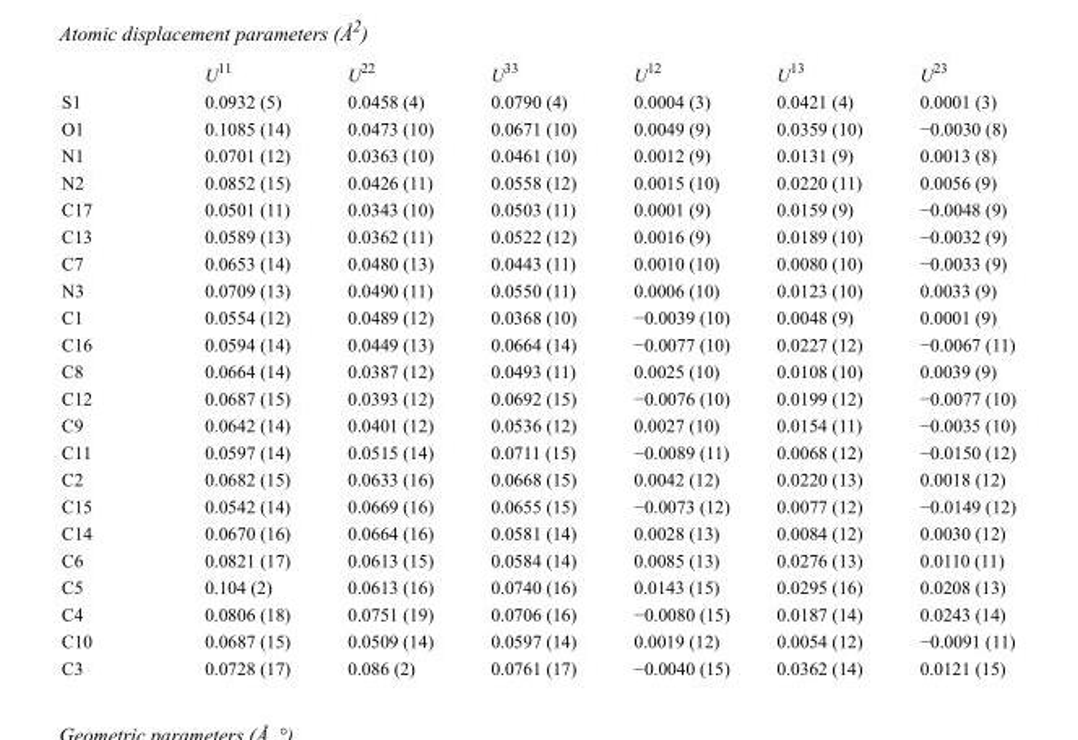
<table><thead><tr><td></td><td>U<sup>11</sup></td><td>U<sup>22</sup></td><td>U<sup>33</sup></td><td>U<sup>12</sup></td><td>U<sup>13</sup></td><td>U<sup>23</sup></td></tr></thead><tbody><tr><td>S1</td><td>0.0932 (5)</td><td>0.0458 (4)</td><td>0.0790 (4)</td><td>0.0004 (3)</td><td>0.0421 (4)</td><td>0.0001 (3)</td></tr><tr><td>O1</td><td>0.1085 (14)</td><td>0.0473 (10)</td><td>0.0671 (10)</td><td>0.0049 (9)</td><td>0.0359 (10)</td><td>−0.0030 (8)</td></tr><tr><td>N1</td><td>0.0701 (12)</td><td>0.0363 (10)</td><td>0.0461 (10)</td><td>0.0012 (9)</td><td>0.0131 (9)</td><td>0.0013 (8)</td></tr><tr><td>N2</td><td>0.0852 (15)</td><td>0.0426 (11)</td><td>0.0558 (12)</td><td>0.0015 (10)</td><td>0.0220 (11)</td><td>0.0056 (9)</td></tr><tr><td>C17</td><td>0.0501 (11)</td><td>0.0343 (10)</td><td>0.0503 (11)</td><td>0.0001 (9)</td><td>0.0159 (9)</td><td>−0.0048 (9)</td></tr><tr><td>C13</td><td>0.0589 (13)</td><td>0.0362 (11)</td><td>0.0522 (12)</td><td>0.0016 (9)</td><td>0.0189 (10)</td><td>−0.0032 (9)</td></tr><tr><td>C7</td><td>0.0653 (14)</td><td>0.0480 (13)</td><td>0.0443 (11)</td><td>0.0010 (10)</td><td>0.0080 (10)</td><td>−0.0033 (9)</td></tr><tr><td>N3</td><td>0.0709 (13)</td><td>0.0490 (11)</td><td>0.0550 (11)</td><td>0.0006 (10)</td><td>0.0123 (10)</td><td>0.0033 (9)</td></tr><tr><td>C1</td><td>0.0554 (12)</td><td>0.0489 (12)</td><td>0.0368 (10)</td><td>−0.0039 (10)</td><td>0.0048 (9)</td><td>0.0001 (9)</td></tr><tr><td>C16</td><td>0.0594 (14)</td><td>0.0449 (13)</td><td>0.0664 (14)</td><td>−0.0077 (10)</td><td>0.0227 (12)</td><td>−0.0067 (11)</td></tr><tr><td>C8</td><td>0.0664 (14)</td><td>0.0387 (12)</td><td>0.0493 (11)</td><td>0.0025 (10)</td><td>0.0108 (10)</td><td>0.0039 (9)</td></tr><tr><td>C12</td><td>0.0687 (15)</td><td>0.0393 (12)</td><td>0.0692 (15)</td><td>−0.0076 (10)</td><td>0.0199 (12)</td><td>−0.0077 (10)</td></tr><tr><td>C9</td><td>0.0642 (14)</td><td>0.0401 (12)</td><td>0.0536 (12)</td><td>0.0027 (10)</td><td>0.0154 (11)</td><td>−0.0035 (10)</td></tr><tr><td>C11</td><td>0.0597 (14)</td><td>0.0515 (14)</td><td>0.0711 (15)</td><td>−0.0089 (11)</td><td>0.0068 (12)</td><td>−0.0150 (12)</td></tr><tr><td>C2</td><td>0.0682 (15)</td><td>0.0633 (16)</td><td>0.0668 (15)</td><td>0.0042 (12)</td><td>0.0220 (13)</td><td>0.0018 (12)</td></tr><tr><td>C15</td><td>0.0542 (14)</td><td>0.0669 (16)</td><td>0.0655 (15)</td><td>−0.0073 (12)</td><td>0.0077 (12)</td><td>−0.0149 (12)</td></tr><tr><td>C14</td><td>0.0670 (16)</td><td>0.0664 (16)</td><td>0.0581 (14)</td><td>0.0028 (13)</td><td>0.0084 (12)</td><td>0.0030 (12)</td></tr><tr><td>C6</td><td>0.0821 (17)</td><td>0.0613 (15)</td><td>0.0584 (14)</td><td>0.0085 (13)</td><td>0.0276 (13)</td><td>0.0110 (11)</td></tr><tr><td>C5</td><td>0.104 (2)</td><td>0.0613 (16)</td><td>0.0740 (16)</td><td>0.0143 (15)</td><td>0.0295 (16)</td><td>0.0208 (13)</td></tr><tr><td>C4</td><td>0.0806 (18)</td><td>0.0751 (19)</td><td>0.0706 (16)</td><td>−0.0080 (15)</td><td>0.0187 (14)</td><td>0.0243 (14)</td></tr><tr><td>C10</td><td>0.0687 (15)</td><td>0.0509 (14)</td><td>0.0597 (14)</td><td>0.0019 (12)</td><td>0.0054 (12)</td><td>−0.0091 (11)</td></tr><tr><td>C3</td><td>0.0728 (17)</td><td>0.086 (2)</td><td>0.0761 (17)</td><td>−0.0040 (15)</td><td>0.0362 (14)</td><td>0.0121 (15)</td></tr></tbody></table>